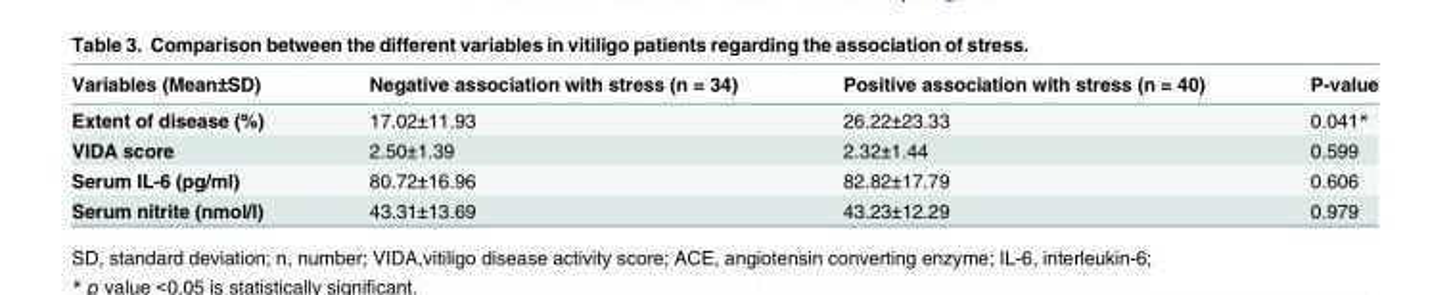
<table><thead><tr><td>Variables (Mean±SD)</td><td>Negative association with stress (n = 34)</td><td>Positive association with stress (n = 40)</td><td>P-value</td></tr></thead><tbody><tr><td>Extent of disease (%)</td><td>17.02±11.93</td><td>26.22±23.33</td><td>0.041*</td></tr><tr><td>VIDA score</td><td>2.50±1.39</td><td>2.32±1.44</td><td>0.599</td></tr><tr><td>Serum IL-6 (pg/ml)</td><td>80.72±16.96</td><td>82.82±17.79</td><td>0.606</td></tr><tr><td>Serum nitrite (nmol/l)</td><td>43.31±13.69</td><td>43.23±12.29</td><td>0.979</td></tr></tbody></table>